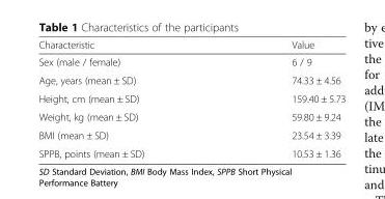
<table><thead><tr><td>Characteristic</td><td>Value</td></tr></thead><tbody><tr><td>Sex (male / female)</td><td>6 / 9</td></tr><tr><td>Age, years (mean ± SD)</td><td>74.33 ± 4.56</td></tr><tr><td>Height, cm (mean ± SD)</td><td>159.40 ± 5.73</td></tr><tr><td>Weight, kg (mean ± SD)</td><td>59.80 ± 9.24</td></tr><tr><td>BMI (mean ± SD)</td><td>23.54 ± 3.39</td></tr><tr><td>SPPB, points (mean ± SD)</td><td>10.53 ± 1.36</td></tr></tbody></table>